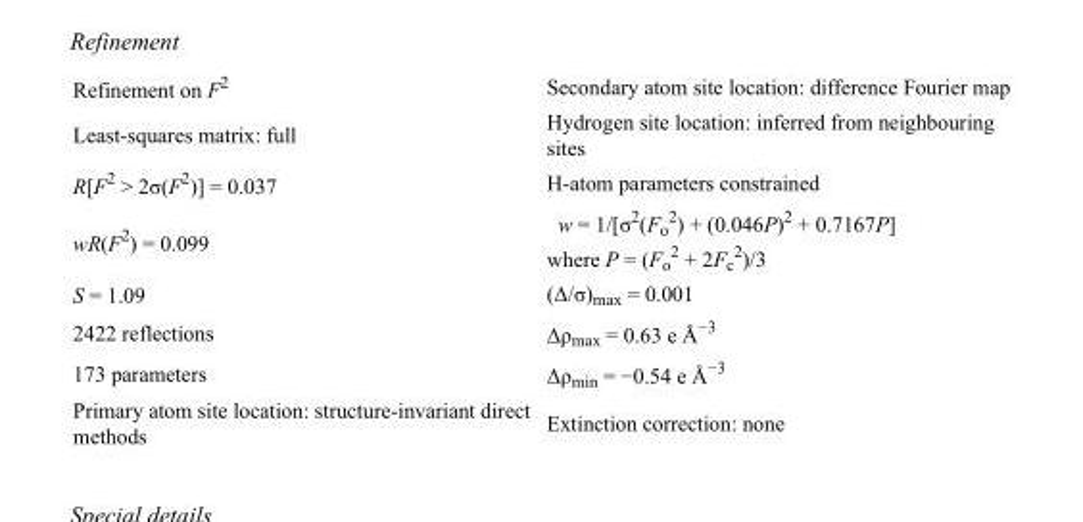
<table><tbody><tr><td>Refinement on F<sup>2</sup></td><td>Secondary atom site location: difference Fourier map</td></tr><tr><td>Least-squares matrix: full</td><td>Hydrogen site location: inferred from neighbouring sites</td></tr><tr><td>R[F<sup>2</sup> &gt; 2σ(F<sup>2</sup>)] = 0.037</td><td>H-atom parameters constrained</td></tr><tr><td>wR(F<sup>2</sup>) = 0.099</td><td>w = 1/[σ<sup>2</sup>(F<sub>o</sub> <sup>2</sup>) + (0.046P)<sup>2</sup> + 0.7167P] where P = (F<sub>o</sub> <sup>2</sup> + 2F<sub>c</sub> <sup>2</sup>)/3</td></tr><tr><td>S = 1.09</td><td>(Δ/σ)<sub>max</sub> = 0.001</td></tr><tr><td>2422 reflections</td><td>Δρ<sub>max</sub> = 0.63 e Å<sup>−3</sup></td></tr><tr><td>173 parameters</td><td>Δρ<sub>min</sub> = −0.54 e Å<sup>−3</sup></td></tr><tr><td>Primary atom site location: structure-invariant direct methods</td><td>Extinction correction: none</td></tr></tbody></table>